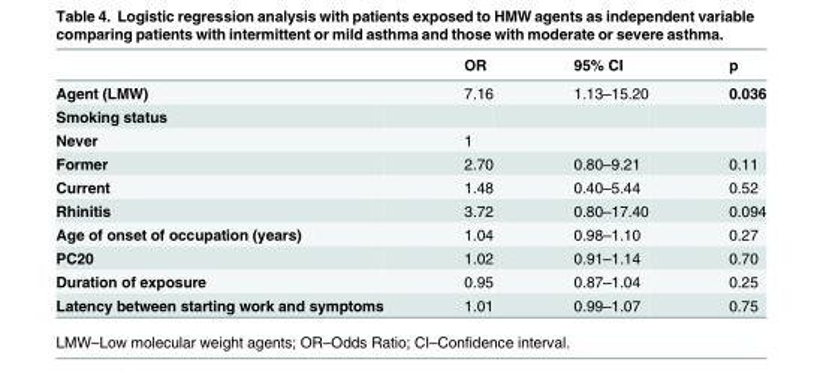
<table><thead><tr><td></td><td>OR</td><td>95% CI</td><td>p</td></tr></thead><tbody><tr><td>Agent (LMW)</td><td>7.16</td><td>1.13–15.20</td><td>0.036</td></tr><tr><td colspan="4">Smoking status</td></tr><tr><td>Never</td><td>1</td><td></td><td></td></tr><tr><td>Former</td><td>2.70</td><td>0.80–9.21</td><td>0.11</td></tr><tr><td>Current</td><td>1.48</td><td>0.40–5.44</td><td>0.52</td></tr><tr><td>Rhinitis</td><td>3.72</td><td>0.80–17.40</td><td>0.094</td></tr><tr><td>Age of onset of occupation (years)</td><td>1.04</td><td>0.98–1.10</td><td>0.27</td></tr><tr><td>PC20</td><td>1.02</td><td>0.91–1.14</td><td>0.70</td></tr><tr><td>Duration of exposure</td><td>0.95</td><td>0.87–1.04</td><td>0.25</td></tr><tr><td>Latency between starting work and symptoms</td><td>1.01</td><td>0.99–1.07</td><td>0.75</td></tr></tbody></table>